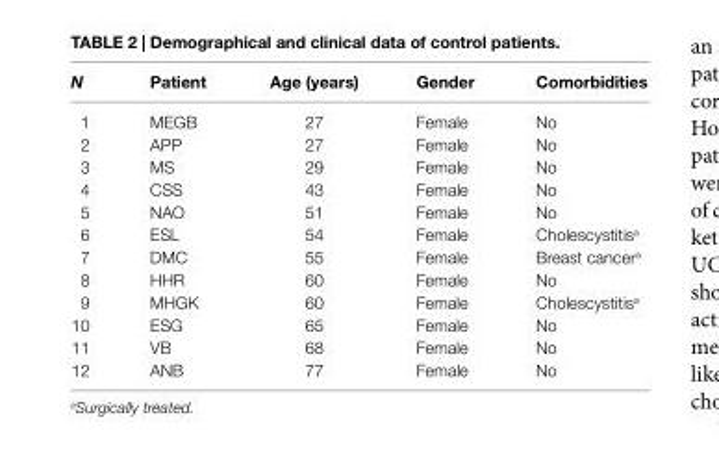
<table><thead><tr><td>N</td><td>Patient</td><td>age (years)</td><td>gender</td><td>comorbidities</td></tr></thead><tbody><tr><td>1</td><td>MEGB</td><td>27</td><td>Female</td><td>No</td></tr><tr><td>2</td><td>APP</td><td>27</td><td>Female</td><td>No</td></tr><tr><td>3</td><td>MS</td><td>29</td><td>Female</td><td>No</td></tr><tr><td>4</td><td>CSS</td><td>43</td><td>Female</td><td>No</td></tr><tr><td>5</td><td>NAO</td><td>51</td><td>Female</td><td>No</td></tr><tr><td>6</td><td>ESL</td><td>54</td><td>Female</td><td>Cholescystitis<sup>a</sup></td></tr><tr><td>7</td><td>DMC</td><td>55</td><td>Female</td><td>Breast cancer<sup>a</sup></td></tr><tr><td>8</td><td>HHR</td><td>60</td><td>Female</td><td>No</td></tr><tr><td>9</td><td>MHGK</td><td>60</td><td>Female</td><td>Cholescystitis<sup>a</sup></td></tr><tr><td>10</td><td>ESG</td><td>65</td><td>Female</td><td>No</td></tr><tr><td>11</td><td>VB</td><td>68</td><td>Female</td><td>No</td></tr><tr><td>12</td><td>ANB</td><td>77</td><td>Female</td><td>No</td></tr></tbody></table>